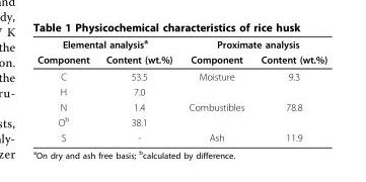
<table><thead><tr><td colspan="2">Elemental analysis<sup>a</sup></td><td colspan="2">Proximate analysis</td></tr><tr><td>Component</td><td>Content (wt.%)</td><td>Component</td><td>Content (wt.%)</td></tr></thead><tbody><tr><td>C</td><td>53.5</td><td>Moisture</td><td>9.3</td></tr><tr><td>H</td><td>7.0</td><td></td><td></td></tr><tr><td>N</td><td>1.4</td><td>Combustibles</td><td>78.8</td></tr><tr><td>O<sup>b</sup></td><td>38.1</td><td></td><td></td></tr><tr><td>S</td><td>-</td><td>Ash</td><td>11.9</td></tr></tbody></table>